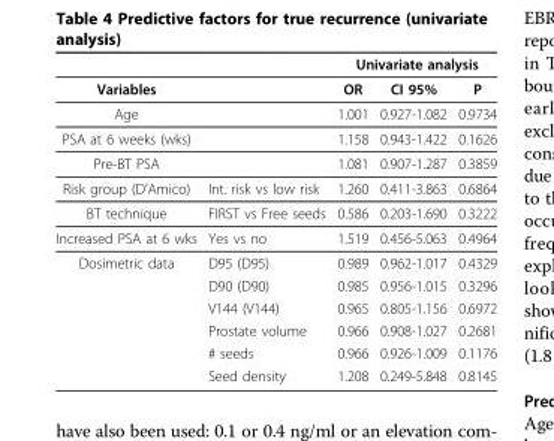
<table><thead><tr><td rowspan="2">Variables</td><td rowspan="2"></td><td colspan="3">Univariate analysis</td></tr><tr><td>OR</td><td>CI 95%</td><td>P</td></tr></thead><tbody><tr><td>Age</td><td></td><td>1.001</td><td>0.927-1.082</td><td>0.9734</td></tr><tr><td>PSA at 6 weeks (wks)</td><td></td><td>1.158</td><td>0.943-1.422</td><td>0.1626</td></tr><tr><td>Pre-BT PSA</td><td></td><td>1.081</td><td>0.907-1.287</td><td>0.3859</td></tr><tr><td>Risk group (D’Amico)</td><td>Int. risk vs low risk</td><td>1.260</td><td>0.411-3.863</td><td>0.6864</td></tr><tr><td>BT technique</td><td>FIRST vs Free seeds</td><td>0.586</td><td>0.203-1.690</td><td>0.3222</td></tr><tr><td>Increased PSA at 6 wks</td><td>Yes vs no</td><td>1.519</td><td>0.456-5.063</td><td>0.4964</td></tr><tr><td rowspan="6">Dosimetric data</td><td>D95 (D95)</td><td>0.989</td><td>0.962-1.017</td><td>0.4329</td></tr><tr><td>D90 (D90)</td><td>0.985</td><td>0.956-1.015</td><td>0.3296</td></tr><tr><td>V144 (V144)</td><td>0.965</td><td>0.805-1.156</td><td>0.6972</td></tr><tr><td>Prostate volume</td><td>0.966</td><td>0.908-1.027</td><td>0.2681</td></tr><tr><td># seeds</td><td>0.966</td><td>0.926-1.009</td><td>0.1176</td></tr><tr><td>Seed density</td><td>1.208</td><td>0.249-5.848</td><td>0.8145</td></tr></tbody></table>